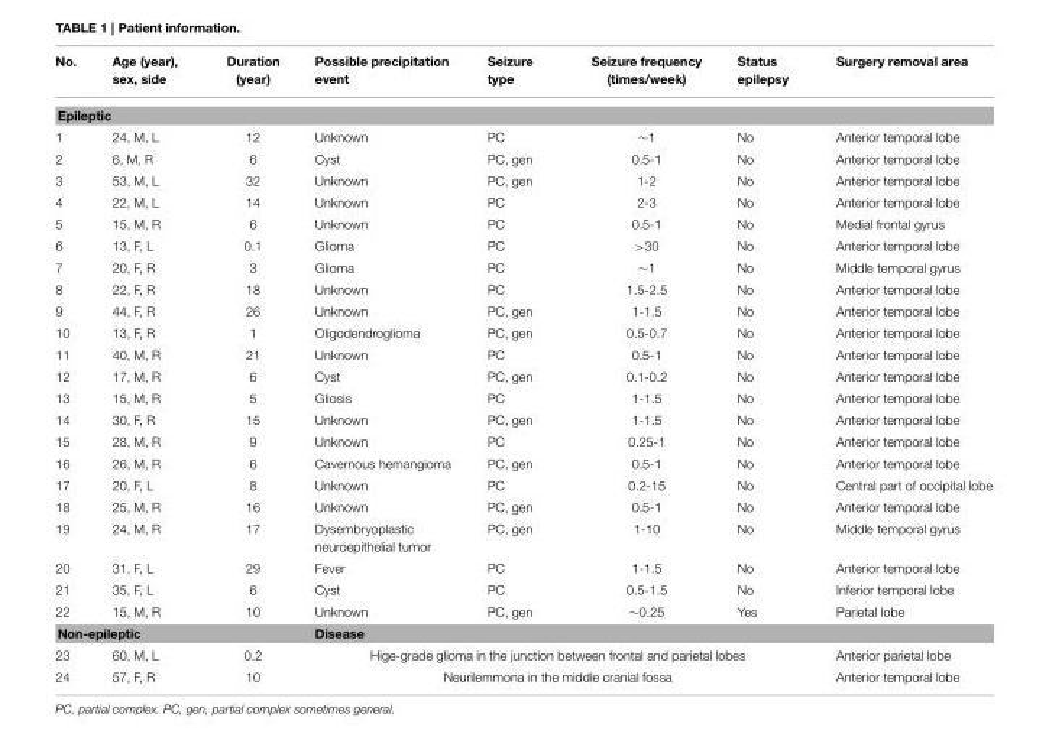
<table><thead><tr><td>No.</td><td>Age (year), sex, side</td><td>Duration (year)</td><td>Possible precipitation event</td><td>Seizure type</td><td>Seizure frequency (times/week)</td><td>Status epilepsy</td><td>Surgery removal area</td></tr></thead><tbody><tr><td colspan="8">Epileptic</td></tr><tr><td>1</td><td>24, M, L</td><td>12</td><td>Unknown</td><td>PC</td><td>∼1</td><td>No</td><td>Anterior temporal lobe</td></tr><tr><td>2</td><td>6, M, R</td><td>6</td><td>Cyst</td><td>PC, gen</td><td>0.5-1</td><td>No</td><td>Anterior temporal lobe</td></tr><tr><td>3</td><td>53, M, L</td><td>32</td><td>Unknown</td><td>PC, gen</td><td>1-2</td><td>No</td><td>Anterior temporal lobe</td></tr><tr><td>4</td><td>22, M, L</td><td>14</td><td>Unknown</td><td>PC</td><td>2-3</td><td>No</td><td>Anterior temporal lobe</td></tr><tr><td>5</td><td>15, M, R</td><td>6</td><td>Unknown</td><td>PC</td><td>0.5-1</td><td>No</td><td>Medial frontal gyrus</td></tr><tr><td>6</td><td>13, F, L</td><td>0.1</td><td>Glioma</td><td>PC</td><td>&gt;30</td><td>No</td><td>Anterior temporal lobe</td></tr><tr><td>7</td><td>20, F, R</td><td>3</td><td>Glioma</td><td>PC</td><td>∼1</td><td>No</td><td>Middle temporal gyrus</td></tr><tr><td>8</td><td>22, F, R</td><td>18</td><td>Unknown</td><td>PC</td><td>1.5-2.5</td><td>No</td><td>Anterior temporal lobe</td></tr><tr><td>9</td><td>44, F, R</td><td>26</td><td>Unknown</td><td>PC, gen</td><td>1-1.5</td><td>No</td><td>Anterior temporal lobe</td></tr><tr><td>10</td><td>13, F, R</td><td>1</td><td>Oligodendroglioma</td><td>PC, gen</td><td>0.5-0.7</td><td>No</td><td>Anterior temporal lobe</td></tr><tr><td>11</td><td>40, M, R</td><td>21</td><td>Unknown</td><td>PC</td><td>0.5-1</td><td>No</td><td>Anterior temporal lobe</td></tr><tr><td>12</td><td>17, M, R</td><td>6</td><td>Cyst</td><td>PC, gen</td><td>0.1-0.2</td><td>No</td><td>Anterior temporal lobe</td></tr><tr><td>13</td><td>15, M, R</td><td>5</td><td>Gliosis</td><td>PC</td><td>1-1.5</td><td>No</td><td>Anterior temporal lobe</td></tr><tr><td>14</td><td>30, F, R</td><td>15</td><td>Unknown</td><td>PC, gen</td><td>1-1.5</td><td>No</td><td>Anterior temporal lobe</td></tr><tr><td>15</td><td>28, M, R</td><td>9</td><td>Unknown</td><td>PC</td><td>0.25-1</td><td>No</td><td>Anterior temporal lobe</td></tr><tr><td>16</td><td>26, M, R</td><td>6</td><td>Cavernous hemangioma</td><td>PC, gen</td><td>0.5-1</td><td>No</td><td>Anterior temporal lobe</td></tr><tr><td>17</td><td>20, F, L</td><td>8</td><td>Unknown</td><td>PC</td><td>0.2-15</td><td>No</td><td>Central part of occipital lobe</td></tr><tr><td>18</td><td>25, M, R</td><td>16</td><td>Unknown</td><td>PC, gen</td><td>0.5-1</td><td>No</td><td>Anterior temporal lobe</td></tr><tr><td>19</td><td>24, M, R</td><td>17</td><td>Dysembryoplastic neuroepithelial tumor</td><td>PC, gen</td><td>1-10</td><td>No</td><td>Middle temporal gyrus</td></tr><tr><td>20</td><td>31, F, L</td><td>29</td><td>Fever</td><td>PC</td><td>1-1.5</td><td>No</td><td>Anterior temporal lobe</td></tr><tr><td>21</td><td>35, F, L</td><td>6</td><td>Cyst</td><td>PC</td><td>0.5-1.5</td><td>No</td><td>Inferior temporal lobe</td></tr><tr><td>22</td><td>15, M, R</td><td>10</td><td>Unknown</td><td>PC, gen</td><td>∼0.25</td><td>Yes</td><td>Parietal lobe</td></tr><tr><td colspan="3">Non-epileptic</td><td>Disease</td><td></td><td></td><td></td><td></td></tr><tr><td>23</td><td>60, M, L</td><td>0.2</td><td colspan="4">Hige-grade glioma in the junction between frontal and parietal lobes</td><td>Anterior parietal lobe</td></tr><tr><td>24</td><td>57, F, R</td><td>10</td><td colspan="4">Neurilemmona in the middle cranial fossa</td><td>Anterior temporal lobe</td></tr></tbody></table>